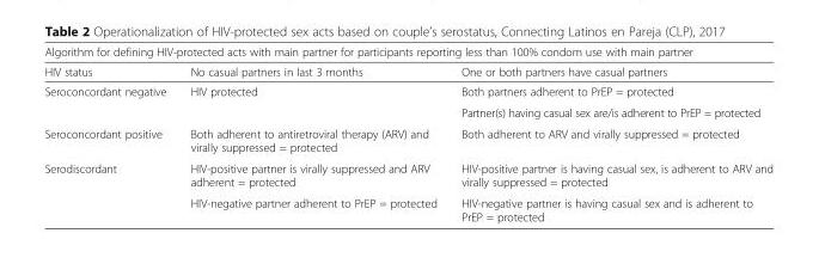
<table><thead><tr><td colspan="3">Algorithm for defining HIV-protected acts with main partner for participants reporting less than 100% condom use with main partner</td></tr><tr><td>HIV status</td><td>No casual partners in last 3 months</td><td>One or both partners have casual partners</td></tr></thead><tbody><tr><td rowspan="2">Seroconcordant negative</td><td rowspan="2">HIV protected</td><td>Both partners adherent to PrEP = protected</td></tr><tr><td>Partner(s) having casual sex are/is adherent to PrEP = protected</td></tr><tr><td>Seroconcordant positive</td><td>Both adherent to antiretroviral therapy (ARV) and virally suppressed = protected</td><td>Both adherent to ARV and virally suppressed = protected</td></tr><tr><td rowspan="2">Serodiscordant</td><td>HIV-positive partner is virally suppressed and ARV adherent = protected</td><td>HIV-positive partner is having casual sex, is adherent to ARV and virally suppressed = protected</td></tr><tr><td>HIV-negative partner adherent to PrEP = protected</td><td>HIV-negative partner is having casual sex and is adherent to PrEP = protected</td></tr></tbody></table>